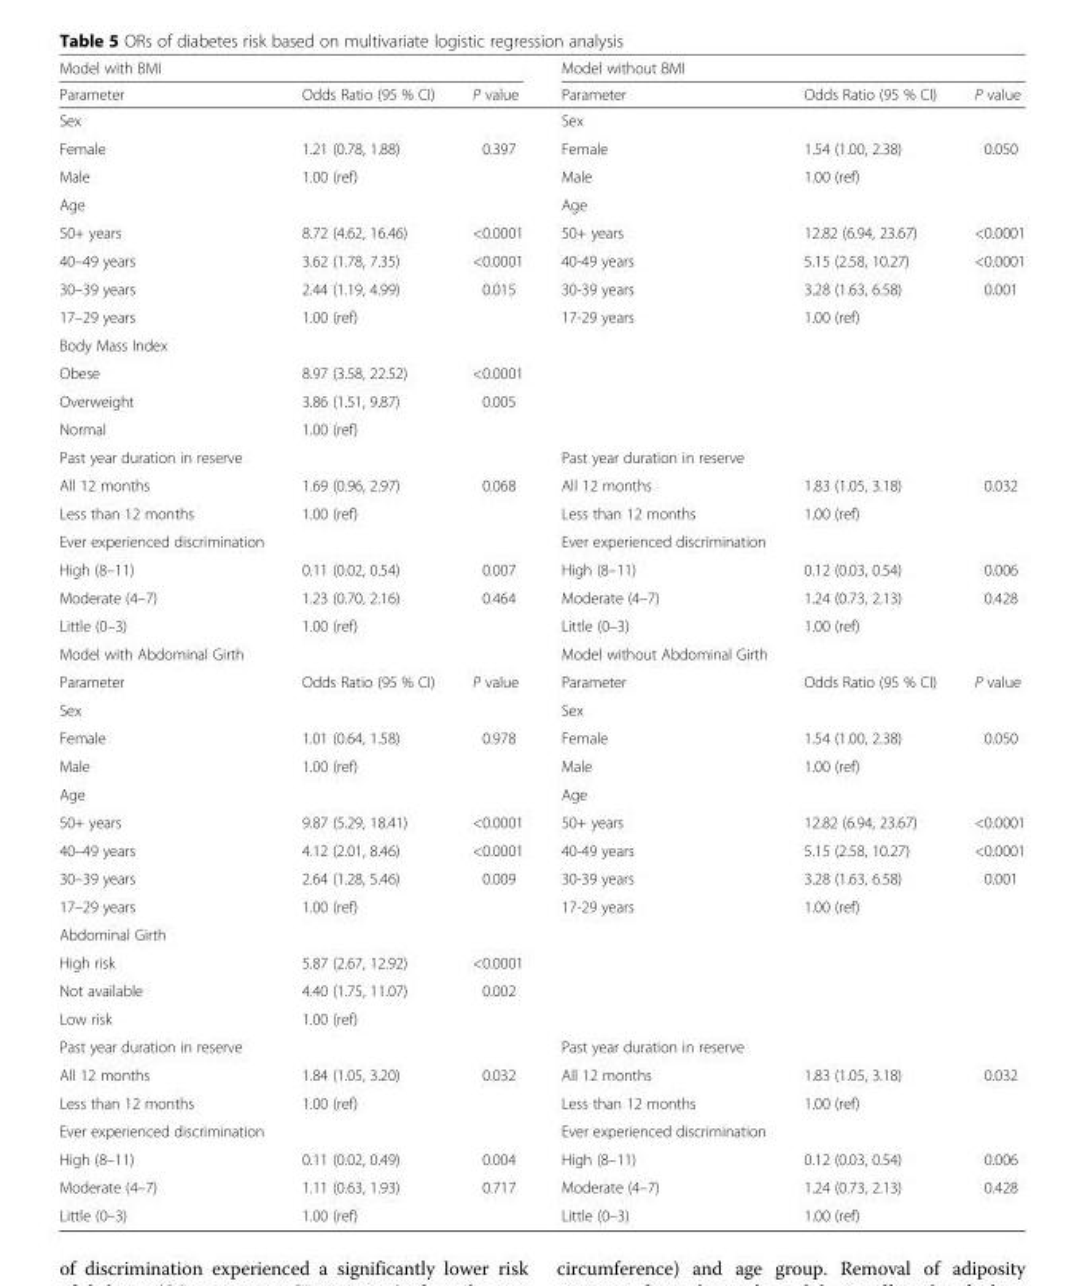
<table><thead><tr><td colspan="3">Model with BMI</td><td colspan="3">Model without BMI</td></tr><tr><td>Parameter</td><td>Odds Ratio (95 % CI)</td><td>P value</td><td>Parameter</td><td>Odds Ratio (95 % CI)</td><td>P value</td></tr></thead><tbody><tr><td>Sex</td><td></td><td></td><td>Sex</td><td></td><td></td></tr><tr><td>Female</td><td>1.21 (0.78, 1.88)</td><td>0.397</td><td>Female</td><td>1.54 (1.00, 2.38)</td><td>0.050</td></tr><tr><td>Male</td><td>1.00 (ref)</td><td></td><td>Male</td><td>1.00 (ref)</td><td></td></tr><tr><td>Age</td><td></td><td></td><td>Age</td><td></td><td></td></tr><tr><td>50+ years</td><td>8.72 (4.62, 16.46)</td><td>&lt;0.0001</td><td>50+ years</td><td>12.82 (6.94, 23.67)</td><td>&lt;0.0001</td></tr><tr><td>40–49 years</td><td>3.62 (1.78, 7.35)</td><td>&lt;0.0001</td><td>40-49 years</td><td>5.15 (2.58, 10.27)</td><td>&lt;0.0001</td></tr><tr><td>30–39 years</td><td>2.44 (1.19, 4.99)</td><td>0.015</td><td>30-39 years</td><td>3.28 (1.63, 6.58)</td><td>0.001</td></tr><tr><td>17–29 years</td><td>1.00 (ref)</td><td></td><td>17-29 years</td><td>1.00 (ref)</td><td></td></tr><tr><td colspan="6">Body Mass Index</td></tr><tr><td>Obese</td><td>8.97 (3.58, 22.52)</td><td>&lt;0.0001</td><td></td><td></td><td></td></tr><tr><td>Overweight</td><td>3.86 (1.51, 9.87)</td><td>0.005</td><td></td><td></td><td></td></tr><tr><td>Normal</td><td>1.00 (ref)</td><td></td><td></td><td></td><td></td></tr><tr><td>Past year duration in reserve</td><td></td><td></td><td>Past year duration in reserve</td><td></td><td></td></tr><tr><td>All 12 months</td><td>1.69 (0.96, 2.97)</td><td>0.068</td><td>All 12 months</td><td>1.83 (1.05, 3.18)</td><td>0.032</td></tr><tr><td>Less than 12 months</td><td>1.00 (ref)</td><td></td><td>Less than 12 months</td><td>1.00 (ref)</td><td></td></tr><tr><td>Ever experienced discrimination</td><td></td><td></td><td>Ever experienced discrimination</td><td></td><td></td></tr><tr><td>High (8–11)</td><td>0.11 (0.02, 0.54)</td><td>0.007</td><td>High (8–11)</td><td>0.12 (0.03, 0.54)</td><td>0.006</td></tr><tr><td>Moderate (4–7)</td><td>1.23 (0.70, 2.16)</td><td>0.464</td><td>Moderate (4–7)</td><td>1.24 (0.73, 2.13)</td><td>0.428</td></tr><tr><td>Little (0–3)</td><td>1.00 (ref)</td><td></td><td>Little (0–3)</td><td>1.00 (ref)</td><td></td></tr><tr><td colspan="3">Model with Abdominal Girth</td><td colspan="3">Model without Abdominal Girth</td></tr><tr><td>Parameter</td><td>Odds Ratio (95 % CI)</td><td>P value</td><td>Parameter</td><td>Odds Ratio (95 % CI)</td><td>P value</td></tr><tr><td>Sex</td><td></td><td></td><td>Sex</td><td></td><td></td></tr><tr><td>Female</td><td>1.01 (0.64, 1.58)</td><td>0.978</td><td>Female</td><td>1.54 (1.00, 2.38)</td><td>0.050</td></tr><tr><td>Male</td><td>1.00 (ref)</td><td></td><td>Male</td><td>1.00 (ref)</td><td></td></tr><tr><td>Age</td><td></td><td></td><td>Age</td><td></td><td></td></tr><tr><td>50+ years</td><td>9.87 (5.29, 18.41)</td><td>&lt;0.0001</td><td>50+ years</td><td>12.82 (6.94, 23.67)</td><td>&lt;0.0001</td></tr><tr><td>40–49 years</td><td>4.12 (2.01, 8.46)</td><td>&lt;0.0001</td><td>40-49 years</td><td>5.15 (2.58, 10.27)</td><td>&lt;0.0001</td></tr><tr><td>30–39 years</td><td>2.64 (1.28, 5.46)</td><td>0.009</td><td>30-39 years</td><td>3.28 (1.63, 6.58)</td><td>0.001</td></tr><tr><td>17–29 years</td><td>1.00 (ref)</td><td></td><td>17-29 years</td><td>1.00 (ref)</td><td></td></tr><tr><td colspan="6">Abdominal Girth</td></tr><tr><td>High risk</td><td>5.87 (2.67, 12.92)</td><td>&lt;0.0001</td><td></td><td></td><td></td></tr><tr><td>Not available</td><td>4.40 (1.75, 11.07)</td><td>0.002</td><td></td><td></td><td></td></tr><tr><td>Low risk</td><td>1.00 (ref)</td><td></td><td></td><td></td><td></td></tr><tr><td>Past year duration in reserve</td><td></td><td></td><td>Past year duration in reserve</td><td></td><td></td></tr><tr><td>All 12 months</td><td>1.84 (1.05, 3.20)</td><td>0.032</td><td>All 12 months</td><td>1.83 (1.05, 3.18)</td><td>0.032</td></tr><tr><td>Less than 12 months</td><td>1.00 (ref)</td><td></td><td>Less than 12 months</td><td>1.00 (ref)</td><td></td></tr><tr><td>Ever experienced discrimination</td><td></td><td></td><td>Ever experienced discrimination</td><td></td><td></td></tr><tr><td>High (8–11)</td><td>0.11 (0.02, 0.49)</td><td>0.004</td><td>High (8–11)</td><td>0.12 (0.03, 0.54)</td><td>0.006</td></tr><tr><td>Moderate (4–7)</td><td>1.11 (0.63, 1.93)</td><td>0.717</td><td>Moderate (4–7)</td><td>1.24 (0.73, 2.13)</td><td>0.428</td></tr><tr><td>Little (0–3)</td><td>1.00 (ref)</td><td></td><td>Little (0–3)</td><td>1.00 (ref)</td><td></td></tr></tbody></table>